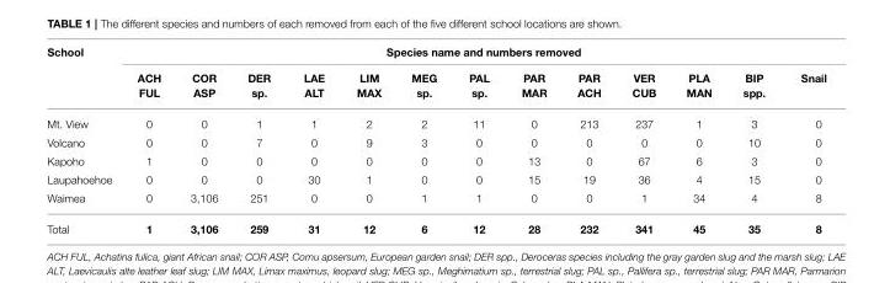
<table><thead><tr><td rowspan="2">School</td><td colspan="13">Species name and numbers removed</td></tr><tr><td>ACH FUL</td><td>COR ASP</td><td>DER sp.</td><td>LAE ALT</td><td>LIM MAX</td><td>MEG sp.</td><td>PAL sp.</td><td>PAR MAR</td><td>PAR ACH</td><td>VER CUB</td><td>PLA MAN</td><td>BIP spp.</td><td>Snail</td></tr></thead><tbody><tr><td>Mt. View</td><td>0</td><td>0</td><td>1</td><td>1</td><td>2</td><td>2</td><td>11</td><td>0</td><td>213</td><td>237</td><td>1</td><td>3</td><td>0</td></tr><tr><td>Volcano</td><td>0</td><td>0</td><td>7</td><td>0</td><td>9</td><td>3</td><td>0</td><td>0</td><td>0</td><td>0</td><td>0</td><td>10</td><td>0</td></tr><tr><td>Kapoho</td><td>1</td><td>0</td><td>0</td><td>0</td><td>0</td><td>0</td><td>0</td><td>13</td><td>0</td><td>67</td><td>6</td><td>3</td><td>0</td></tr><tr><td>Laupahoehoe</td><td>0</td><td>0</td><td>0</td><td>30</td><td>1</td><td>0</td><td>0</td><td>15</td><td>19</td><td>36</td><td>4</td><td>15</td><td>0</td></tr><tr><td>Waimea</td><td>0</td><td>3,106</td><td>251</td><td>0</td><td>0</td><td>1</td><td>1</td><td>0</td><td>0</td><td>1</td><td>34</td><td>4</td><td>8</td></tr><tr><td>Total</td><td>1</td><td>3,106</td><td>259</td><td>31</td><td>12</td><td>6</td><td>12</td><td>28</td><td>232</td><td>341</td><td>45</td><td>35</td><td>8</td></tr></tbody></table>